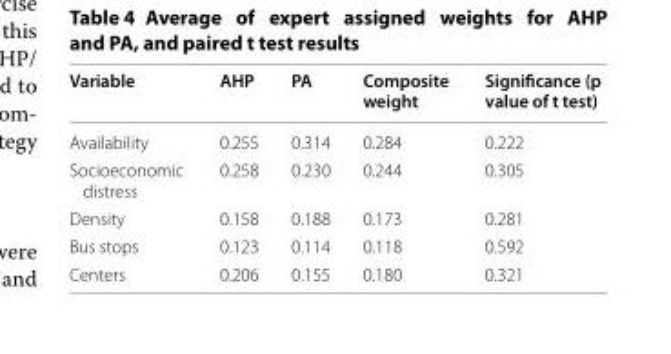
<table><thead><tr><td>Variable</td><td>AHP</td><td>PA</td><td>Composite weight</td><td>Significance (p value of t test)</td></tr></thead><tbody><tr><td>Availability</td><td>0.255</td><td>0.314</td><td>0.284</td><td>0.222</td></tr><tr><td>Socioeconomic distress</td><td>0.258</td><td>0.230</td><td>0.244</td><td>0.305</td></tr><tr><td>Density</td><td>0.158</td><td>0.188</td><td>0.173</td><td>0.281</td></tr><tr><td>Bus stops</td><td>0.123</td><td>0.114</td><td>0.118</td><td>0.592</td></tr><tr><td>Centers</td><td>0.206</td><td>0.155</td><td>0.180</td><td>0.321</td></tr></tbody></table>